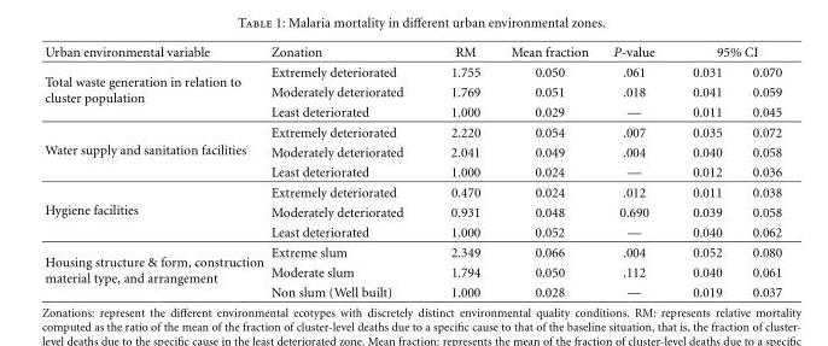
<table><thead><tr><td>Urban environmental variable</td><td>Zonation</td><td>RM</td><td>Mean fraction</td><td>P-value</td><td>95% CI</td></tr></thead><tbody><tr><td rowspan="3">Total waste generation in relation to cluster population</td><td>Extremely deteriorated</td><td>1.755</td><td>0.050</td><td>.061</td><td>0.031 0.070</td></tr><tr><td>Moderately deteriorated</td><td>1.769</td><td>0.051</td><td>.018</td><td>0.041 0.059</td></tr><tr><td>Least deteriorated</td><td>1.000</td><td>0.029</td><td>—</td><td>0.011 0.045</td></tr><tr><td rowspan="3">Water supply and sanitation facilities</td><td>Extremely deteriorated</td><td>2.220</td><td>0.054</td><td>.007</td><td>0.035 0.072</td></tr><tr><td>Moderately deteriorated</td><td>2.041</td><td>0.049</td><td>.004</td><td>0.040 0.058</td></tr><tr><td>Least deteriorated</td><td>1.000</td><td>0.024</td><td>—</td><td>0.012 0.036</td></tr><tr><td rowspan="3">Hygiene facilities</td><td>Extremely deteriorated</td><td>0.470</td><td>0.024</td><td>.012</td><td>0.011 0.038</td></tr><tr><td>Moderately deteriorated</td><td>0.931</td><td>0.048</td><td>0.690</td><td>0.039 0.058</td></tr><tr><td>Least deteriorated</td><td>1.000</td><td>0.052</td><td>—</td><td>0.040 0.062</td></tr><tr><td rowspan="3">Housing structure &amp; form, construction material type, and arrangement</td><td>Extreme slum</td><td>2.349</td><td>0.066</td><td>.004</td><td>0.052 0.080</td></tr><tr><td>Moderate slum</td><td>1.794</td><td>0.050</td><td>.112</td><td>0.040 0.061</td></tr><tr><td>Non slum (Well built)</td><td>1.000</td><td>0.028</td><td>—</td><td>0.019 0.037</td></tr></tbody></table>